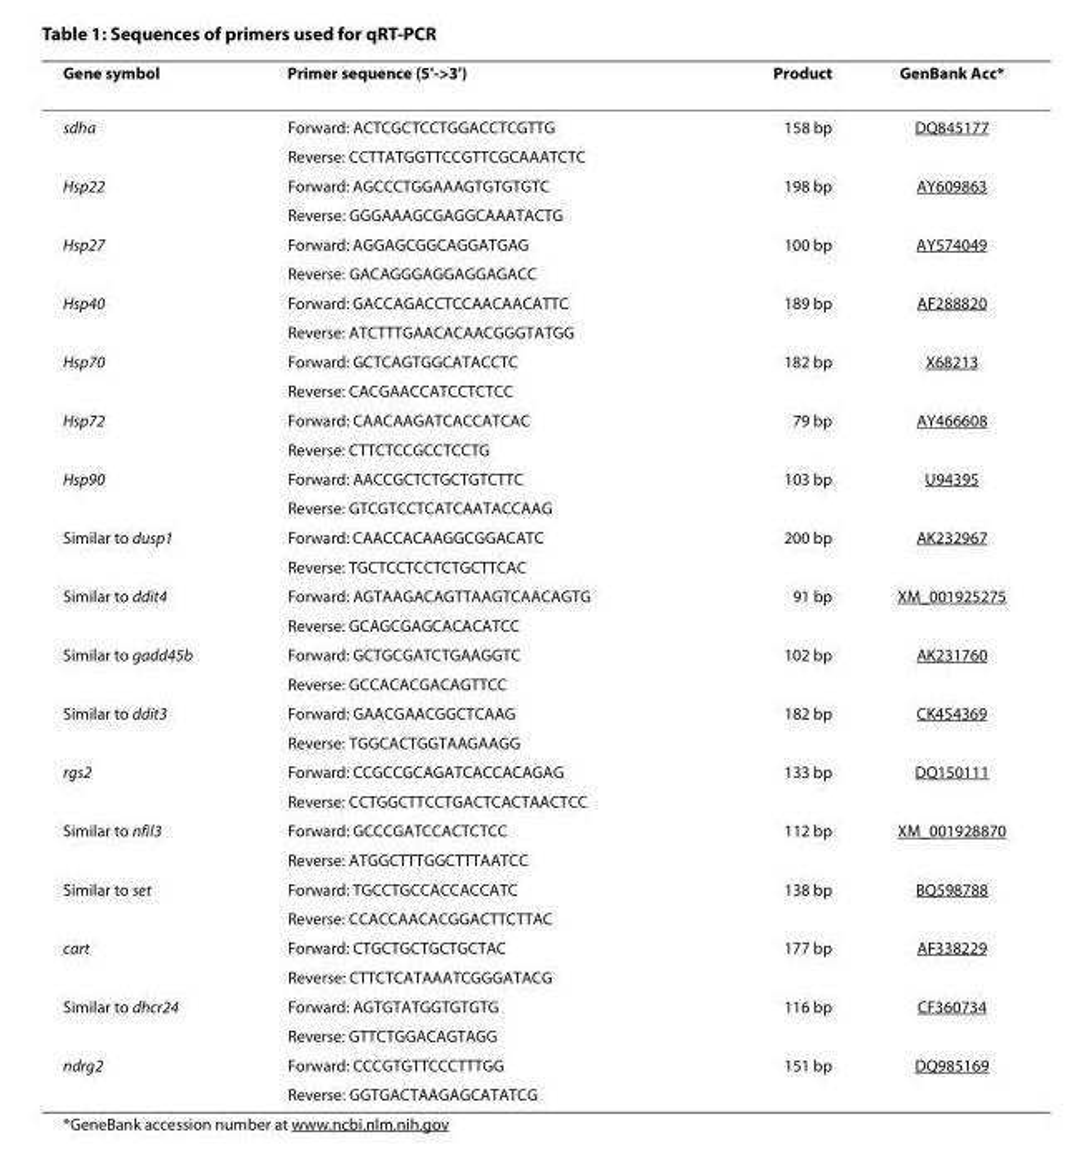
<table><thead><tr><td>Gene symbol</td><td>Primer sequence (5&#x27;-&gt;3&#x27;)</td><td>Product</td><td>GenBank Acc*</td></tr></thead><tbody><tr><td rowspan="2">sdha</td><td>Forward: ACTCGCTCCTGGACCTCGTTG</td><td>158 bp</td><td>DQ845177</td></tr><tr><td>Reverse: CCTTATGGTTCCGTTCGCAAATCTC</td><td></td><td></td></tr><tr><td rowspan="2">Hsp22</td><td>Forward: AGCCCTGGAAAGTGTGTGTC</td><td>198 bp</td><td>AY609863</td></tr><tr><td>Reverse: GGGAAAGCGAGGCAAATACTG</td><td></td><td></td></tr><tr><td rowspan="2">Hsp27</td><td>Forward: AGGAGCGGCAGGATGAG</td><td>100 bp</td><td>AY574049</td></tr><tr><td>Reverse: GACAGGGAGGAGGAGACC</td><td></td><td></td></tr><tr><td rowspan="2">Hsp40</td><td>Forward: GACCAGACCTCCAACAACATTC</td><td>189 bp</td><td>AF288820</td></tr><tr><td>Reverse: ATCTTTGAACACAACGGGTATGG</td><td></td><td></td></tr><tr><td rowspan="2">Hsp70</td><td>Forward: GCTCAGTGGCATACCTC</td><td>182 bp</td><td>X68213</td></tr><tr><td>Reverse: CACGAACCATCCTCTCC</td><td></td><td></td></tr><tr><td rowspan="2">Hsp72</td><td>Forward: CAACAAGATCACCATCAC</td><td>79 bp</td><td>AY466608</td></tr><tr><td>Reverse: CTTCTCCGCCTCCTG</td><td></td><td></td></tr><tr><td rowspan="2">Hsp90</td><td>Forward: AACCGCTCTGCTGTCTTC</td><td>103 bp</td><td>U94395</td></tr><tr><td>Reverse: GTCGTCCTCATCAATACCAAG</td><td></td><td></td></tr><tr><td rowspan="2">Similar to dusp1</td><td>Forward: CAACCACAAGGCGGACATC</td><td>200 bp</td><td>AK232967</td></tr><tr><td>Reverse: TGCTCCTCCTCTGCTTCAC</td><td></td><td></td></tr><tr><td rowspan="2">Similar to ddit4</td><td>Forward: AGTAAGACAGTTAAGTCAACAGTG</td><td>91 bp</td><td>XM_001925275</td></tr><tr><td>Reverse: GCAGCGAGCACACATCC</td><td></td><td></td></tr><tr><td rowspan="2">Similar to gadd45b</td><td>Forward: GCTGCGATCTGAAGGTC</td><td>102 bp</td><td>AK231760</td></tr><tr><td>Reverse: GCCACACGACAGTTCC</td><td></td><td></td></tr><tr><td rowspan="2">Similar to ddit3</td><td>Forward: GAACGAACGGCTCAAG</td><td>182 bp</td><td>CK454369</td></tr><tr><td>Reverse: TGGCACTGGTAAGAAGG</td><td></td><td></td></tr><tr><td rowspan="2">rgs2</td><td>Forward: CCGCCGCAGATCACCACAGAG</td><td>133 bp</td><td>DQ150111</td></tr><tr><td>Reverse: CCTGGCTTCCTGACTCACTAACTCC</td><td></td><td></td></tr><tr><td rowspan="2">Similar to nfil3</td><td>Forward: GCCCGATCCACTCTCC</td><td>112 bp</td><td>XM_001928870</td></tr><tr><td>Reverse: ATGGCTTTGGCTTTAATCC</td><td></td><td></td></tr><tr><td rowspan="2">Similar to set</td><td>Forward: TGCCTGCCACCACCATC</td><td>138 bp</td><td>BQ598788</td></tr><tr><td>Reverse: CCACCAACACGGACTTCTTAC</td><td></td><td></td></tr><tr><td rowspan="2">cart</td><td>Forward: CTGCTGCTGCTGCTAC</td><td>177 bp</td><td>AF338229</td></tr><tr><td>Reverse: CTTCTCATAAATCGGGATACG</td><td></td><td></td></tr><tr><td rowspan="2">Similar to dhcr24</td><td>Forward: AGTGTATGGTGTGTG</td><td>116 bp</td><td>CF360734</td></tr><tr><td>Reverse: GTTCTGGACAGTAGG</td><td></td><td></td></tr><tr><td rowspan="2">ndrg2</td><td>Forward: CCCGTGTTCCCTTTGG</td><td>151 bp</td><td>DQ985169</td></tr><tr><td>Reverse: GGTGACTAAGAGCATATCG</td><td></td><td></td></tr></tbody></table>